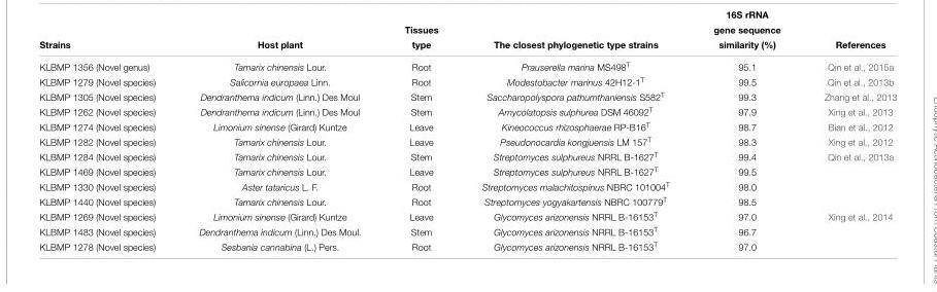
<table><thead><tr><td>Strains</td><td>Host plant</td><td>type</td><td>The closest phylogenetic type strains</td><td>similarity (%)</td><td>References</td></tr></thead><tbody><tr><td>KLBMP 1356 (Novel genus)</td><td>Tamarix chinensis Lour.</td><td>Root</td><td>Prauserella marina MS498<sup>T</sup></td><td>95.1</td><td>Qin et al., 2015a</td></tr><tr><td>KLBMP 1279 (Novel species)</td><td>Salicornia europaea Linn.</td><td>Root</td><td>Modestobacter marinus 42H12-1<sup>T</sup></td><td>99.5</td><td>Qin et al., 2013b</td></tr><tr><td>KLBMP 1305 (Novel species)</td><td>Dendranthema indicum (Linn.) Des Moul</td><td>Stem</td><td>Saccharopolyspora pathumthaniensis S582<sup>T</sup></td><td>99.3</td><td>Zhang et al., 2013</td></tr><tr><td>KLBMP 1262 (Novel species)</td><td>Dendranthema indicum (Linn.) Des Moul</td><td>Stem</td><td>Amycolatopsis sulphurea DSM 46092<sup>T</sup></td><td>97.9</td><td>Xing et al., 2013</td></tr><tr><td>KLBMP 1274 (Novel species)</td><td>Limonium sinense (Girard) Kuntze</td><td>Leave</td><td>Kineococcus rhizosphaerae RP-B16<sup>T</sup></td><td>98.7</td><td>Bian et al., 2012</td></tr><tr><td>KLBMP 1282 (Novel species)</td><td>Tamarix chinensis Lour.</td><td>Leave</td><td>Pseudonocardia kongjuensis LM 157<sup>T</sup></td><td>98.3</td><td>Xing et al., 2012</td></tr><tr><td>KLBMP 1284 (Novel species)</td><td>Tamarix chinensis Lour.</td><td>Stem</td><td>Streptomyces sulphureus NRRL B-1627<sup>T</sup></td><td>99.4</td><td>Qin et al., 2013a</td></tr><tr><td>KLBMP 1469 (Novel species)</td><td>Tamarix chinensis Lour.</td><td>Leave</td><td>Streptomyces sulphureus NRRL B-1627<sup>T</sup></td><td>99.5</td><td></td></tr><tr><td>KLBMP 1330 (Novel species)</td><td>Aster tataricus L. F.</td><td>Root</td><td>Streptomyces malachitospinus NBRC 101004<sup>T</sup></td><td>98.0</td><td></td></tr><tr><td>KLBMP 1440 (Novel species)</td><td>Tamarix chinensis Lour.</td><td>Root</td><td>Streptomyces yogyakartensis NBRC 100779<sup>T</sup></td><td>98.5</td><td></td></tr><tr><td>KLBMP 1269 (Novel species)</td><td>Limonium sinense (Girard) Kuntze</td><td>Leave</td><td>Glycomyces arizonensis NRRL B-16153<sup>T</sup></td><td>97.0</td><td>Xing et al., 2014</td></tr><tr><td>KLBMP 1483 (Novel species)</td><td>Dendranthema indicum (Linn.) Des Moul.</td><td>Stem</td><td>Glycomyces arizonensis NRRL B-16153<sup>T</sup></td><td>96.7</td><td></td></tr><tr><td>KLBMP 1278 (Novel species)</td><td>Sesbania cannabina (L.) Pers.</td><td>Root</td><td>Glycomyces arizonensis NRRL B-16153<sup>T</sup></td><td>97.0</td><td></td></tr></tbody></table>